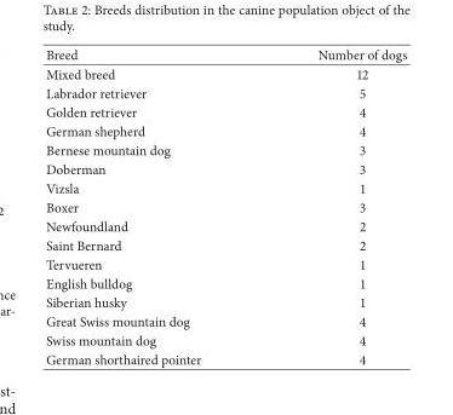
<table><thead><tr><td>Breed</td><td>Number of dogs</td></tr></thead><tbody><tr><td>Mixed breed</td><td>12</td></tr><tr><td>Labrador retriever</td><td>5</td></tr><tr><td>Golden retriever</td><td>4</td></tr><tr><td>German shepherd</td><td>4</td></tr><tr><td>Bernese mountain dog</td><td>3</td></tr><tr><td>Doberman</td><td>3</td></tr><tr><td>Vizsla</td><td>1</td></tr><tr><td>Boxer</td><td>3</td></tr><tr><td>Newfoundland</td><td>2</td></tr><tr><td>Saint Bernard</td><td>2</td></tr><tr><td>Tervueren</td><td>1</td></tr><tr><td>English bulldog</td><td>1</td></tr><tr><td>Siberian husky</td><td>1</td></tr><tr><td>Great Swiss mountain dog</td><td>4</td></tr><tr><td>Swiss mountain dog</td><td>4</td></tr><tr><td>German shorthaired pointer</td><td>4</td></tr></tbody></table>